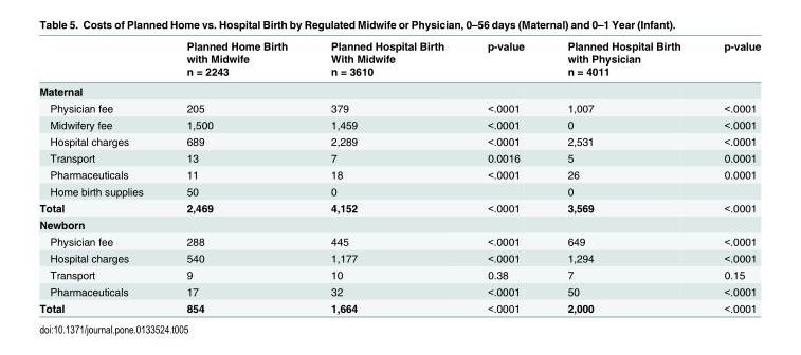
<table><thead><tr><td rowspan="2"></td><td rowspan="2">Planned Home Birth with Midwife n = 2243</td><td rowspan="2">Planned Hospital Birth With Midwife n = 3610</td><td rowspan="2">p-value</td><td rowspan="2">Planned Hospital Birth with Physician n = 4011</td><td rowspan="2">p-value</td></tr><tr></tr></thead><tbody><tr><td colspan="6">Maternal</td></tr><tr><td>Physician fee</td><td>205</td><td>379</td><td>&lt;.0001</td><td>1,007</td><td>&lt;.0001</td></tr><tr><td>Midwifery fee</td><td>1,500</td><td>1,459</td><td>&lt;.0001</td><td>0</td><td>&lt;.0001</td></tr><tr><td>Hospital charges</td><td>689</td><td>2,289</td><td>&lt;.0001</td><td>2,531</td><td>&lt;.0001</td></tr><tr><td>Transport</td><td>13</td><td>7</td><td>0.0016</td><td>5</td><td>0.0001</td></tr><tr><td>Pharmaceuticals</td><td>11</td><td>18</td><td>&lt;.0001</td><td>26</td><td>0.0001</td></tr><tr><td>Home birth supplies</td><td>50</td><td>0</td><td></td><td>0</td><td></td></tr><tr><td>Total</td><td>2,469</td><td>4,152</td><td>&lt;.0001</td><td>3,569</td><td>&lt;.0001</td></tr><tr><td colspan="6">Newborn</td></tr><tr><td>Physician fee</td><td>288</td><td>445</td><td>&lt;.0001</td><td>649</td><td>&lt;.0001</td></tr><tr><td>Hospital charges</td><td>540</td><td>1,177</td><td>&lt;.0001</td><td>1,294</td><td>&lt;.0001</td></tr><tr><td>Transport</td><td>9</td><td>10</td><td>0.38</td><td>7</td><td>0.15</td></tr><tr><td>Pharmaceuticals</td><td>17</td><td>32</td><td>&lt;.0001</td><td>50</td><td>&lt;.0001</td></tr><tr><td>Total</td><td>854</td><td>1,664</td><td>&lt;.0001</td><td>2,000</td><td>&lt;.0001</td></tr></tbody></table>